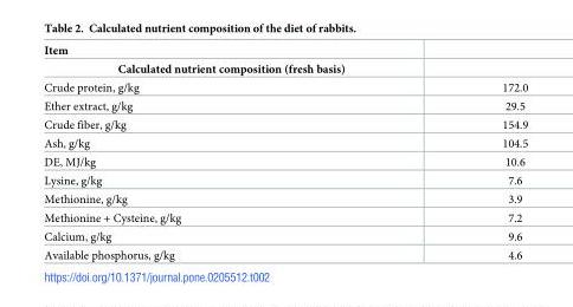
<table><thead><tr><td rowspan="2">Item Calculated nutrient composition (fresh basis)</td><td rowspan="2"></td></tr><tr></tr></thead><tbody><tr><td>Crude protein, g/kg</td><td>172.0</td></tr><tr><td>Ether extract, g/kg</td><td>29.5</td></tr><tr><td>Crude fiber, g/kg</td><td>154.9</td></tr><tr><td>Ash, g/kg</td><td>104.5</td></tr><tr><td>DE, MJ/kg</td><td>10.6</td></tr><tr><td>Lysine, g/kg</td><td>7.6</td></tr><tr><td>Methionine, g/kg</td><td>3.9</td></tr><tr><td>Methionine + Cysteine, g/kg</td><td>7.2</td></tr><tr><td>Calcium, g/kg</td><td>9.6</td></tr><tr><td>Available phosphorus, g/kg</td><td>4.6</td></tr></tbody></table>